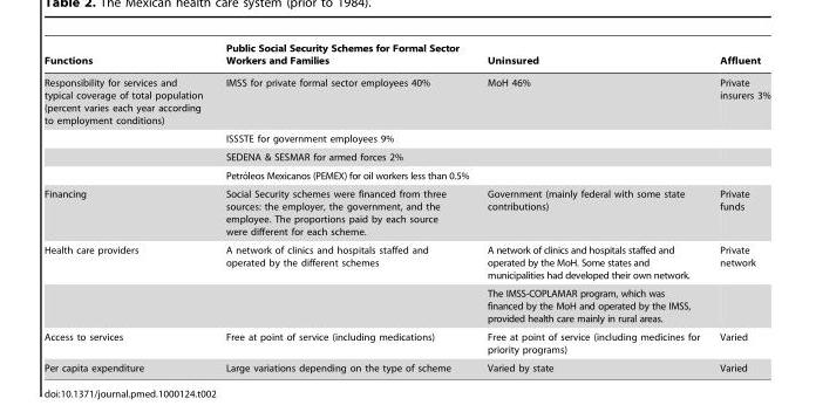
<table><thead><tr><td>Functions</td><td>Public Social Security Schemes for Formal Sector Workers and Families</td><td>Uninsured</td><td>Affluent</td></tr></thead><tbody><tr><td rowspan="4">Responsibility for services and typical coverage of total population (percent varies each year according to employment conditions)</td><td>IMSS for private formal sector employees 40%</td><td>MoH 46%</td><td>Private insurers 3%</td></tr><tr><td>ISSSTE for government employees 9%</td><td></td><td></td></tr><tr><td>SEDENA &amp; SESMAR for armed forces 2%</td><td></td><td></td></tr><tr><td>Petro´leos Mexicanos (PEMEX) for oil workers less than 0.5%</td><td></td><td></td></tr><tr><td>Financing</td><td>Social Security schemes were financed from three sources: the employer, the government, and the employee. The proportions paid by each source were different for each scheme.</td><td>Government (mainly federal with some state contributions)</td><td>Private funds</td></tr><tr><td rowspan="2">Health care providers</td><td>A network of clinics and hospitals staffed and operated by the different schemes</td><td>A network of clinics and hospitals staffed and operated by the MoH. Some states and municipalities had developed their own network.</td><td>Private network</td></tr><tr><td></td><td>The IMSS-COPLAMAR program, which was financed by the MoH and operated by the IMSS, provided health care mainly in rural areas.</td><td></td></tr><tr><td>Access to services</td><td>Free at point of service (including medications)</td><td>Free at point of service (including medicines for priority programs)</td><td>Varied</td></tr><tr><td>Per capita expenditure</td><td>Large variations depending on the type of scheme</td><td>Varied by state</td><td>Varied</td></tr></tbody></table>